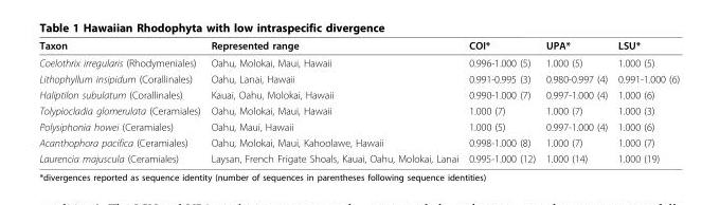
<table><thead><tr><td>Taxon</td><td>Represented range</td><td>COI*</td><td>UPA*</td><td>LSU*</td></tr></thead><tbody><tr><td>Coelothrix irregularis (Rhodymeniales)</td><td>Oahu, Molokai, Maui, Hawaii</td><td>0.996-1.000 (5)</td><td>1.000 (5)</td><td>1.000 (5)</td></tr><tr><td>Lithophyllum insipidum (Corallinales)</td><td>Oahu, Lanai, Hawaii</td><td>0.991-0.995 (3)</td><td>0.980-0.997 (4)</td><td>0.991-1.000 (6)</td></tr><tr><td>Haliptilon subulatum (Corallinales)</td><td>Kauai, Oahu, Molokai, Hawaii</td><td>0.990-1.000 (7)</td><td>0.997-1.000 (4)</td><td>1.000 (6)</td></tr><tr><td>Tolypiocladia glomerulata (Ceramiales)</td><td>Oahu, Molokai, Maui, Hawaii</td><td>1.000 (7)</td><td>1.000 (7)</td><td>1.000 (3)</td></tr><tr><td>Polysiphonia howei (Ceramiales)</td><td>Oahu, Maui, Hawaii</td><td>1.000 (5)</td><td>0.997-1.000 (4)</td><td>1.000 (6)</td></tr><tr><td>Acanthophora pacifica (Ceramiales)</td><td>Oahu, Molokai, Maui, Kahoolawe, Hawaii</td><td>0.998-1.000 (8)</td><td>1.000 (7)</td><td>1.000 (7)</td></tr><tr><td>Laurencia majuscula (Ceramiales)</td><td>Laysan, French Frigate Shoals, Kauai, Oahu, Molokai, Lanai</td><td>0.995-1.000 (12)</td><td>1.000 (14)</td><td>1.000 (19)</td></tr></tbody></table>